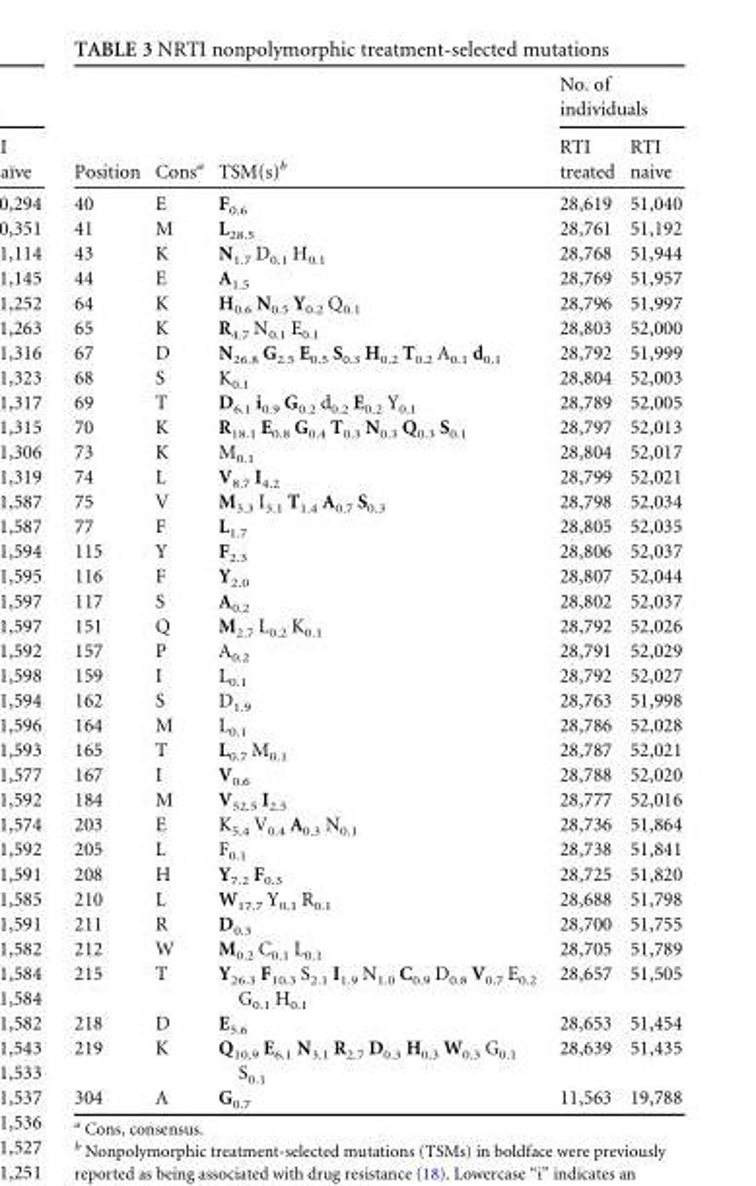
<table><thead><tr><td rowspan="2">Position</td><td rowspan="2">Cons<sup>a</sup></td><td rowspan="2">TSM(s)<sup>b</sup></td><td colspan="2">No. of individuals</td></tr><tr><td>RTI treated</td><td>RTI naive</td></tr></thead><tbody><tr><td>40</td><td>E</td><td>F<sub>0.6</sub></td><td>28,619</td><td>51,040</td></tr><tr><td>41</td><td>M</td><td>L<sub>28.5</sub></td><td>28,761</td><td>51,192</td></tr><tr><td>43</td><td>K</td><td>N<sub>1.7</sub> D<sub>0.1</sub> H<sub>0.1</sub></td><td>28,768</td><td>51,944</td></tr><tr><td>44</td><td>E</td><td>A<sub>1.5</sub></td><td>28,769</td><td>51,957</td></tr><tr><td>64</td><td>K</td><td>H<sub>0.6</sub> N<sub>0.5</sub> Y<sub>0.2</sub> Q<sub>0.1</sub></td><td>28,796</td><td>51,997</td></tr><tr><td>65</td><td>K</td><td>R<sub>4.7</sub> N<sub>0.1</sub> E<sub>0.1</sub></td><td>28,803</td><td>52,000</td></tr><tr><td>67</td><td>D</td><td>N<sub>26.8</sub> G<sub>2.5</sub> E<sub>0.5</sub> S<sub>0.3</sub> H<sub>0.2</sub> T<sub>0.2</sub> A<sub>0.1</sub> d<sub>0.1</sub></td><td>28,792</td><td>51,999</td></tr><tr><td>68</td><td>S</td><td>K<sub>0.1</sub></td><td>28,804</td><td>52,003</td></tr><tr><td>69</td><td>T</td><td>D<sub>6.1</sub> i<sub>0.9</sub> G<sub>0.2</sub> d<sub>0.2</sub> E<sub>0.2</sub> Y<sub>0.1</sub></td><td>28,789</td><td>52,005</td></tr><tr><td>70</td><td>K</td><td>R<sub>18.1</sub> E<sub>0.8</sub> G<sub>0.4</sub> T<sub>0.3</sub> N<sub>0.3</sub> Q<sub>0.3</sub> S<sub>0.1</sub></td><td>28,797</td><td>52,013</td></tr><tr><td>73</td><td>K</td><td>M<sub>0.1</sub></td><td>28,804</td><td>52,017</td></tr><tr><td>74</td><td>L</td><td>V<sub>8.7</sub> I<sub>4.2</sub></td><td>28,799</td><td>52,021</td></tr><tr><td>75</td><td>V</td><td>M<sub>3.3</sub> I<sub>3.1</sub> T<sub>1.4</sub> A<sub>0.7</sub> S<sub>0.3</sub></td><td>28,798</td><td>52,034</td></tr><tr><td>77</td><td>F</td><td>L<sub>1.7</sub></td><td>28,805</td><td>52,035</td></tr><tr><td>115</td><td>Y</td><td>F<sub>2.3</sub></td><td>28,806</td><td>52,037</td></tr><tr><td>116</td><td>F</td><td>Y<sub>2.0</sub></td><td>28,807</td><td>52,044</td></tr><tr><td>117</td><td>S</td><td>A<sub>0.2</sub></td><td>28,802</td><td>52,037</td></tr><tr><td>151</td><td>Q</td><td>M<sub>2.7</sub> L<sub>0.2</sub> K<sub>0.1</sub></td><td>28,792</td><td>52,026</td></tr><tr><td>157</td><td>P</td><td>A<sub>0.2</sub></td><td>28,791</td><td>52,029</td></tr><tr><td>159</td><td>I</td><td>L<sub>0.1</sub></td><td>28,792</td><td>52,027</td></tr><tr><td>162</td><td>S</td><td>D<sub>1.9</sub></td><td>28,763</td><td>51,998</td></tr><tr><td>164</td><td>M</td><td>L<sub>0.1</sub></td><td>28,786</td><td>52,028</td></tr><tr><td>165</td><td>T</td><td>L<sub>0.7</sub> M<sub>0.1</sub></td><td>28,787</td><td>52,021</td></tr><tr><td>167</td><td>I</td><td>V<sub>0.6</sub></td><td>28,788</td><td>52,020</td></tr><tr><td>184</td><td>M</td><td>V<sub>52.5</sub> I<sub>2.5</sub></td><td>28,777</td><td>52,016</td></tr><tr><td>203</td><td>E</td><td>K<sub>5.4</sub> V<sub>0.4</sub> A<sub>0.3</sub> N<sub>0.1</sub></td><td>28,736</td><td>51,864</td></tr><tr><td>205</td><td>L</td><td>F<sub>0.1</sub></td><td>28,738</td><td>51,841</td></tr><tr><td>208</td><td>H</td><td>Y<sub>7.2</sub> F<sub>0.3</sub></td><td>28,725</td><td>51,820</td></tr><tr><td>210</td><td>L</td><td>W<sub>17.7</sub> Y<sub>0.1</sub> R<sub>0.1</sub></td><td>28,688</td><td>51,798</td></tr><tr><td>211</td><td>R</td><td>D<sub>0.3</sub></td><td>28,700</td><td>51,755</td></tr><tr><td>212</td><td>W</td><td>M<sub>0.2</sub> C<sub>0.1</sub> L<sub>0.1</sub></td><td>28,705</td><td>51,789</td></tr><tr><td>215</td><td>T</td><td>Y<sub>26.3</sub> F<sub>10.3</sub> S<sub>2.1</sub> I<sub>1.9</sub> N<sub>1.0</sub> C<sub>0.9</sub> D<sub>0.8</sub> V<sub>0.7</sub> E<sub>0.2</sub> G<sub>0.1</sub> H<sub>0.1</sub></td><td>28,657</td><td>51,505</td></tr><tr><td>218</td><td>D</td><td>E<sub>5.6</sub></td><td>28,653</td><td>51,454</td></tr><tr><td>219</td><td>K</td><td>Q<sub>10.9</sub> E<sub>6.1</sub> N<sub>3.1</sub> R<sub>2.7</sub> D<sub>0.3</sub> H<sub>0.3</sub> W<sub>0.3</sub> G<sub>0.1</sub> S<sub>0.1</sub></td><td>28,639</td><td>51,435</td></tr><tr><td>304</td><td>A</td><td>G<sub>0.7</sub></td><td>11,563</td><td>19,788</td></tr></tbody></table>